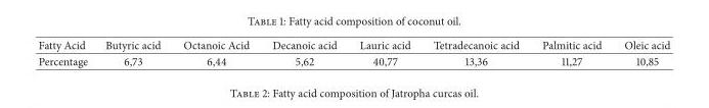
<table><thead><tr><td>Fatty Acid</td><td>Butyric acid</td><td>Octanoic Acid</td><td>Decanoic acid</td><td>Lauric acid</td><td>Tetradecanoic acid</td><td>Palmitic acid</td><td>Oleic acid</td></tr></thead><tbody><tr><td>Percentage</td><td>6,73</td><td>6,44</td><td>5,62</td><td>40,77</td><td>13,36</td><td>11,27</td><td>10,85</td></tr></tbody></table>